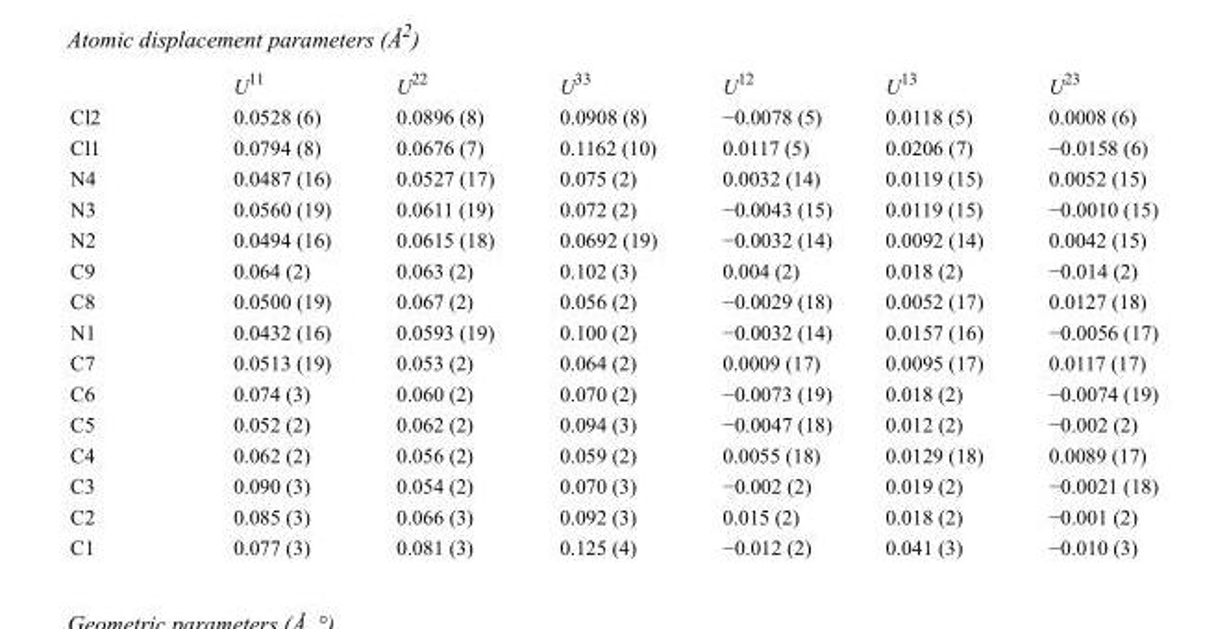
<table><thead><tr><td></td><td>U<sup>11</sup></td><td>U<sup>22</sup></td><td>U<sup>33</sup></td><td>U<sup>12</sup></td><td>U<sup>13</sup></td><td>U<sup>23</sup></td></tr></thead><tbody><tr><td>Cl2</td><td>0.0528 (6)</td><td>0.0896 (8)</td><td>0.0908 (8)</td><td>−0.0078 (5)</td><td>0.0118 (5)</td><td>0.0008 (6)</td></tr><tr><td>Cl1</td><td>0.0794 (8)</td><td>0.0676 (7)</td><td>0.1162 (10)</td><td>0.0117 (5)</td><td>0.0206 (7)</td><td>−0.0158 (6)</td></tr><tr><td>N4</td><td>0.0487 (16)</td><td>0.0527 (17)</td><td>0.075 (2)</td><td>0.0032 (14)</td><td>0.0119 (15)</td><td>0.0052 (15)</td></tr><tr><td>N3</td><td>0.0560 (19)</td><td>0.0611 (19)</td><td>0.072 (2)</td><td>−0.0043 (15)</td><td>0.0119 (15)</td><td>−0.0010 (15)</td></tr><tr><td>N2</td><td>0.0494 (16)</td><td>0.0615 (18)</td><td>0.0692 (19)</td><td>−0.0032 (14)</td><td>0.0092 (14)</td><td>0.0042 (15)</td></tr><tr><td>C9</td><td>0.064 (2)</td><td>0.063 (2)</td><td>0.102 (3)</td><td>0.004 (2)</td><td>0.018 (2)</td><td>−0.014 (2)</td></tr><tr><td>C8</td><td>0.0500 (19)</td><td>0.067 (2)</td><td>0.056 (2)</td><td>−0.0029 (18)</td><td>0.0052 (17)</td><td>0.0127 (18)</td></tr><tr><td>N1</td><td>0.0432 (16)</td><td>0.0593 (19)</td><td>0.100 (2)</td><td>−0.0032 (14)</td><td>0.0157 (16)</td><td>−0.0056 (17)</td></tr><tr><td>C7</td><td>0.0513 (19)</td><td>0.053 (2)</td><td>0.064 (2)</td><td>0.0009 (17)</td><td>0.0095 (17)</td><td>0.0117 (17)</td></tr><tr><td>C6</td><td>0.074 (3)</td><td>0.060 (2)</td><td>0.070 (2)</td><td>−0.0073 (19)</td><td>0.018 (2)</td><td>−0.0074 (19)</td></tr><tr><td>C5</td><td>0.052 (2)</td><td>0.062 (2)</td><td>0.094 (3)</td><td>−0.0047 (18)</td><td>0.012 (2)</td><td>−0.002 (2)</td></tr><tr><td>C4</td><td>0.062 (2)</td><td>0.056 (2)</td><td>0.059 (2)</td><td>0.0055 (18)</td><td>0.0129 (18)</td><td>0.0089 (17)</td></tr><tr><td>C3</td><td>0.090 (3)</td><td>0.054 (2)</td><td>0.070 (3)</td><td>−0.002 (2)</td><td>0.019 (2)</td><td>−0.0021 (18)</td></tr><tr><td>C2</td><td>0.085 (3)</td><td>0.066 (3)</td><td>0.092 (3)</td><td>0.015 (2)</td><td>0.018 (2)</td><td>−0.001 (2)</td></tr><tr><td>C1</td><td>0.077 (3)</td><td>0.081 (3)</td><td>0.125 (4)</td><td>−0.012 (2)</td><td>0.041 (3)</td><td>−0.010 (3)</td></tr></tbody></table>